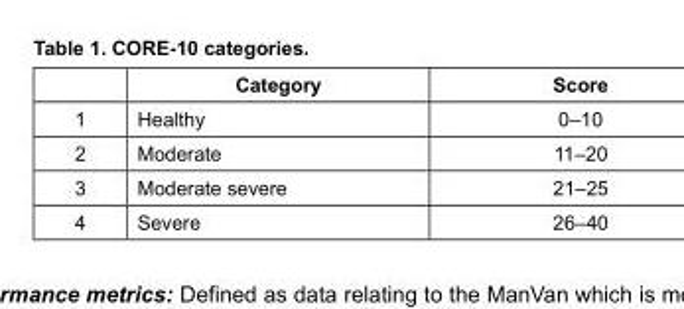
<table><thead><tr><td></td><td>Category</td><td>Score</td></tr></thead><tbody><tr><td>1</td><td>Healthy</td><td>0–10</td></tr><tr><td>2</td><td>Moderate</td><td>11–20</td></tr><tr><td>3</td><td>Moderate severe</td><td>21–25</td></tr><tr><td>4</td><td>Severe</td><td>26–40</td></tr></tbody></table>